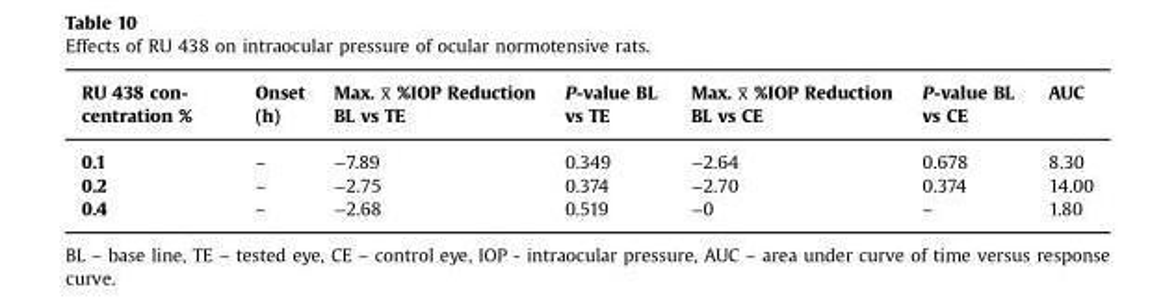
<table><thead><tr><td>RU 438 con- centration %</td><td>Onset (h)</td><td>Max. x̅ %IOP Reduction BL vs TE</td><td>P-value BL vs TE</td><td>Max. x̅ %IOP Reduction BL vs CE</td><td>P-value BL vs CE</td><td>AUC</td></tr></thead><tbody><tr><td>0.1</td><td>–</td><td>−7.89</td><td>0.349</td><td>−2.64</td><td>0.678</td><td>8.30</td></tr><tr><td>0.2</td><td>–</td><td>−2.75</td><td>0.374</td><td>−2.70</td><td>0.374</td><td>14.00</td></tr><tr><td>0.4</td><td>–</td><td>−2.68</td><td>0.519</td><td>−0</td><td>–</td><td>1.80</td></tr></tbody></table>